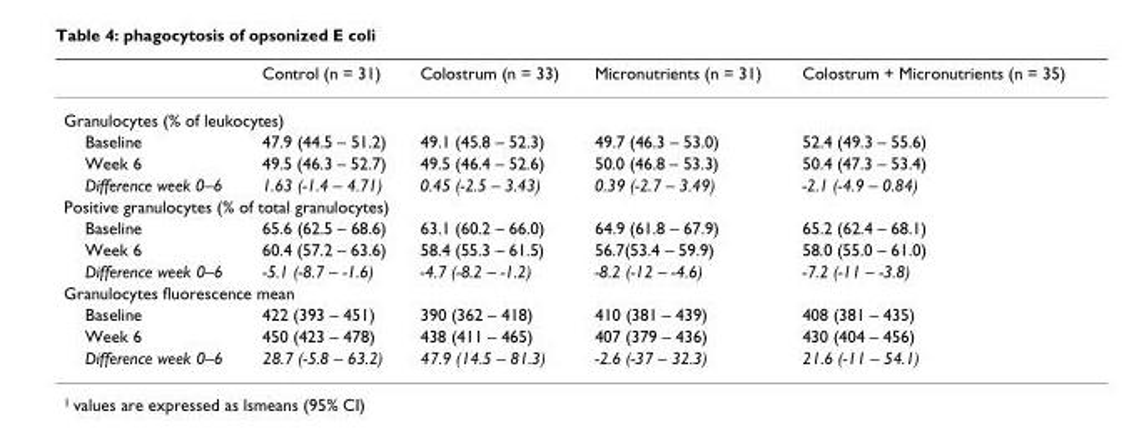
<table><thead><tr><td></td><td>Control (n = 31)</td><td>Colostrum (n = 33)</td><td>Micronutrients (n = 31)</td><td>Colostrum + Micronutrients (n = 35)</td></tr></thead><tbody><tr><td colspan="5">Granulocytes (% of leukocytes)</td></tr><tr><td>Baseline</td><td>47.9 (44.5 – 51.2)</td><td>49.1 (45.8 – 52.3)</td><td>49.7 (46.3 – 53.0)</td><td>52.4 (49.3 – 55.6)</td></tr><tr><td>Week 6</td><td>49.5 (46.3 – 52.7)</td><td>49.5 (46.4 – 52.6)</td><td>50.0 (46.8 – 53.3)</td><td>50.4 (47.3 – 53.4)</td></tr><tr><td>Difference week 0–6</td><td>1.63 (-1.4 – 4.71)</td><td>0.45 (-2.5 – 3.43)</td><td>0.39 (-2.7 – 3.49)</td><td>-2.1 (-4.9 – 0.84)</td></tr><tr><td colspan="5">Positive granulocytes (% of total granulocytes)</td></tr><tr><td>Baseline</td><td>65.6 (62.5 – 68.6)</td><td>63.1 (60.2 – 66.0)</td><td>64.9 (61.8 – 67.9)</td><td>65.2 (62.4 – 68.1)</td></tr><tr><td>Week 6</td><td>60.4 (57.2 – 63.6)</td><td>58.4 (55.3 – 61.5)</td><td>56.7(53.4 – 59.9)</td><td>58.0 (55.0 – 61.0)</td></tr><tr><td>Difference week 0–6</td><td>-5.1 (-8.7 – -1.6)</td><td>-4.7 (-8.2 – -1.2)</td><td>-8.2 (-12 – -4.6)</td><td>-7.2 (-11 – -3.8)</td></tr><tr><td colspan="5">Granulocytes fluorescence mean</td></tr><tr><td>Baseline</td><td>422 (393 – 451)</td><td>390 (362 – 418)</td><td>410 (381 – 439)</td><td>408 (381 – 435)</td></tr><tr><td>Week 6</td><td>450 (423 – 478)</td><td>438 (411 – 465)</td><td>407 (379 – 436)</td><td>430 (404 – 456)</td></tr><tr><td>Difference week 0–6</td><td>28.7 (-5.8 – 63.2)</td><td>47.9 (14.5 – 81.3)</td><td>-2.6 (-37 – 32.3)</td><td>21.6 (-11 – 54.1)</td></tr></tbody></table>